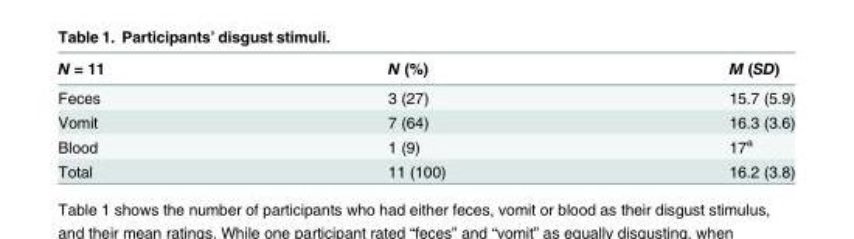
<table><thead><tr><td>N = 11</td><td>N (%)</td><td>M (SD)</td></tr></thead><tbody><tr><td>Feces</td><td>3 (27)</td><td>15.7 (5.9)</td></tr><tr><td>Vomit</td><td>7 (64)</td><td>16.3 (3.6)</td></tr><tr><td>Blood</td><td>1 (9)</td><td>17<sup>a</sup></td></tr><tr><td>Total</td><td>11 (100)</td><td>16.2 (3.8)</td></tr></tbody></table>